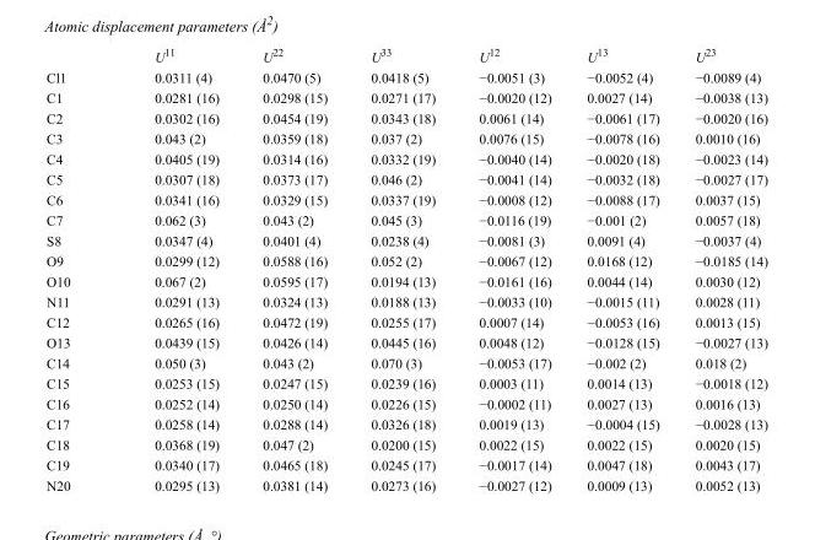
<table><thead><tr><td></td><td>U<sup>11</sup></td><td>U<sup>22</sup></td><td>U<sup>33</sup></td><td>U<sup>12</sup></td><td>U<sup>13</sup></td><td>U<sup>23</sup></td></tr></thead><tbody><tr><td>Cl1</td><td>0.0311 (4)</td><td>0.0470 (5)</td><td>0.0418 (5)</td><td>−0.0051 (3)</td><td>−0.0052 (4)</td><td>−0.0089 (4)</td></tr><tr><td>C1</td><td>0.0281 (16)</td><td>0.0298 (15)</td><td>0.0271 (17)</td><td>−0.0020 (12)</td><td>0.0027 (14)</td><td>−0.0038 (13)</td></tr><tr><td>C2</td><td>0.0302 (16)</td><td>0.0454 (19)</td><td>0.0343 (18)</td><td>0.0061 (14)</td><td>−0.0061 (17)</td><td>−0.0020 (16)</td></tr><tr><td>C3</td><td>0.043 (2)</td><td>0.0359 (18)</td><td>0.037 (2)</td><td>0.0076 (15)</td><td>−0.0078 (16)</td><td>0.0010 (16)</td></tr><tr><td>C4</td><td>0.0405 (19)</td><td>0.0314 (16)</td><td>0.0332 (19)</td><td>−0.0040 (14)</td><td>−0.0020 (18)</td><td>−0.0023 (14)</td></tr><tr><td>C5</td><td>0.0307 (18)</td><td>0.0373 (17)</td><td>0.046 (2)</td><td>−0.0041 (14)</td><td>−0.0032 (18)</td><td>−0.0027 (17)</td></tr><tr><td>C6</td><td>0.0341 (16)</td><td>0.0329 (15)</td><td>0.0337 (19)</td><td>−0.0008 (12)</td><td>−0.0088 (17)</td><td>0.0037 (15)</td></tr><tr><td>C7</td><td>0.062 (3)</td><td>0.043 (2)</td><td>0.045 (3)</td><td>−0.0116 (19)</td><td>−0.001 (2)</td><td>0.0057 (18)</td></tr><tr><td>S8</td><td>0.0347 (4)</td><td>0.0401 (4)</td><td>0.0238 (4)</td><td>−0.0081 (3)</td><td>0.0091 (4)</td><td>−0.0037 (4)</td></tr><tr><td>O9</td><td>0.0299 (12)</td><td>0.0588 (16)</td><td>0.052 (2)</td><td>−0.0067 (12)</td><td>0.0168 (12)</td><td>−0.0185 (14)</td></tr><tr><td>O10</td><td>0.067 (2)</td><td>0.0595 (17)</td><td>0.0194 (13)</td><td>−0.0161 (16)</td><td>0.0044 (14)</td><td>0.0030 (12)</td></tr><tr><td>N11</td><td>0.0291 (13)</td><td>0.0324 (13)</td><td>0.0188 (13)</td><td>−0.0033 (10)</td><td>−0.0015 (11)</td><td>0.0028 (11)</td></tr><tr><td>C12</td><td>0.0265 (16)</td><td>0.0472 (19)</td><td>0.0255 (17)</td><td>0.0007 (14)</td><td>−0.0053 (16)</td><td>0.0013 (15)</td></tr><tr><td>O13</td><td>0.0439 (15)</td><td>0.0426 (14)</td><td>0.0445 (16)</td><td>0.0048 (12)</td><td>−0.0128 (15)</td><td>−0.0027 (13)</td></tr><tr><td>C14</td><td>0.050 (3)</td><td>0.043 (2)</td><td>0.070 (3)</td><td>−0.0053 (17)</td><td>−0.002 (2)</td><td>0.018 (2)</td></tr><tr><td>C15</td><td>0.0253 (15)</td><td>0.0247 (15)</td><td>0.0239 (16)</td><td>0.0003 (11)</td><td>0.0014 (13)</td><td>−0.0018 (12)</td></tr><tr><td>C16</td><td>0.0252 (14)</td><td>0.0250 (14)</td><td>0.0226 (15)</td><td>−0.0002 (11)</td><td>0.0027 (13)</td><td>0.0016 (13)</td></tr><tr><td>C17</td><td>0.0258 (14)</td><td>0.0288 (14)</td><td>0.0326 (18)</td><td>0.0019 (13)</td><td>−0.0004 (15)</td><td>−0.0028 (13)</td></tr><tr><td>C18</td><td>0.0368 (19)</td><td>0.047 (2)</td><td>0.0200 (15)</td><td>0.0022 (15)</td><td>0.0022 (15)</td><td>0.0020 (15)</td></tr><tr><td>C19</td><td>0.0340 (17)</td><td>0.0465 (18)</td><td>0.0245 (17)</td><td>−0.0017 (14)</td><td>0.0047 (18)</td><td>0.0043 (17)</td></tr><tr><td>N20</td><td>0.0295 (13)</td><td>0.0381 (14)</td><td>0.0273 (16)</td><td>−0.0027 (12)</td><td>0.0009 (13)</td><td>0.0052 (13)</td></tr></tbody></table>